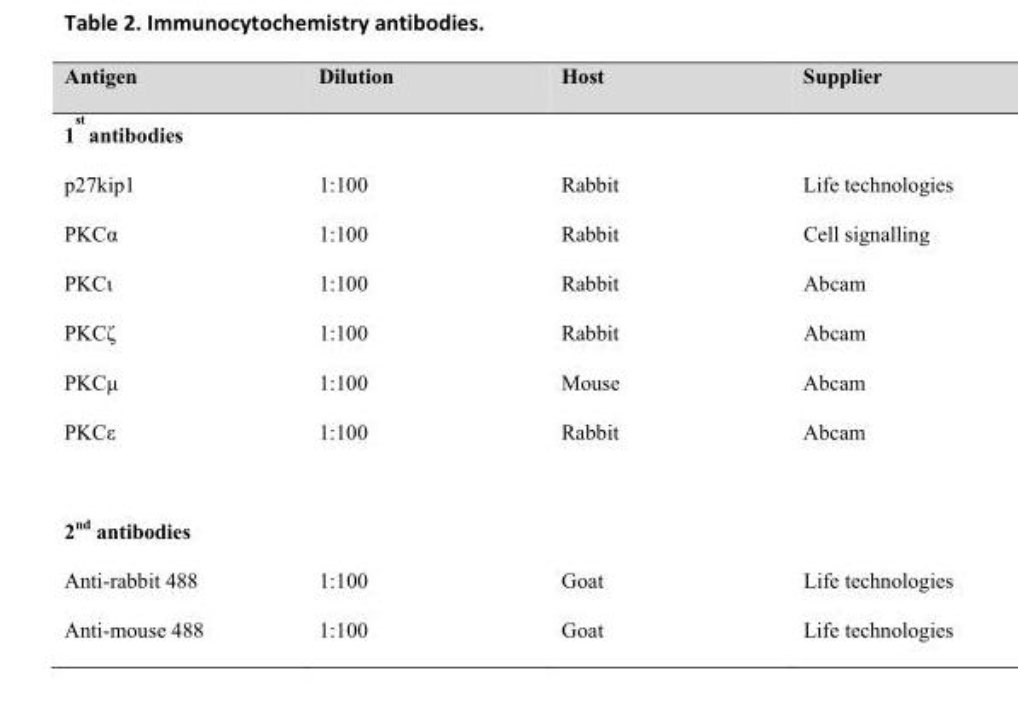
<table><thead><tr><td>Antigen</td><td>Dilution</td><td>Host</td><td>Supplier</td></tr></thead><tbody><tr><td colspan="4">1 <sup>st</sup> antibodies</td></tr><tr><td>p27kip1</td><td>1:100</td><td>Rabbit</td><td>Life technologies</td></tr><tr><td>PKCα</td><td>1:100</td><td>Rabbit</td><td>Cell signalling</td></tr><tr><td>PKCι</td><td>1:100</td><td>Rabbit</td><td>Abcam</td></tr><tr><td>PKCζ</td><td>1:100</td><td>Rabbit</td><td>Abcam</td></tr><tr><td>PKCμ</td><td>1:100</td><td>Mouse</td><td>Abcam</td></tr><tr><td>PKCε</td><td>1:100</td><td>Rabbit</td><td>Abcam</td></tr><tr><td colspan="4">2<sup>nd</sup> antibodies</td></tr><tr><td>Anti-rabbit 488</td><td>1:100</td><td>Goat</td><td>Life technologies</td></tr><tr><td>Anti-mouse 488</td><td>1:100</td><td>Goat</td><td>Life technologies</td></tr></tbody></table>